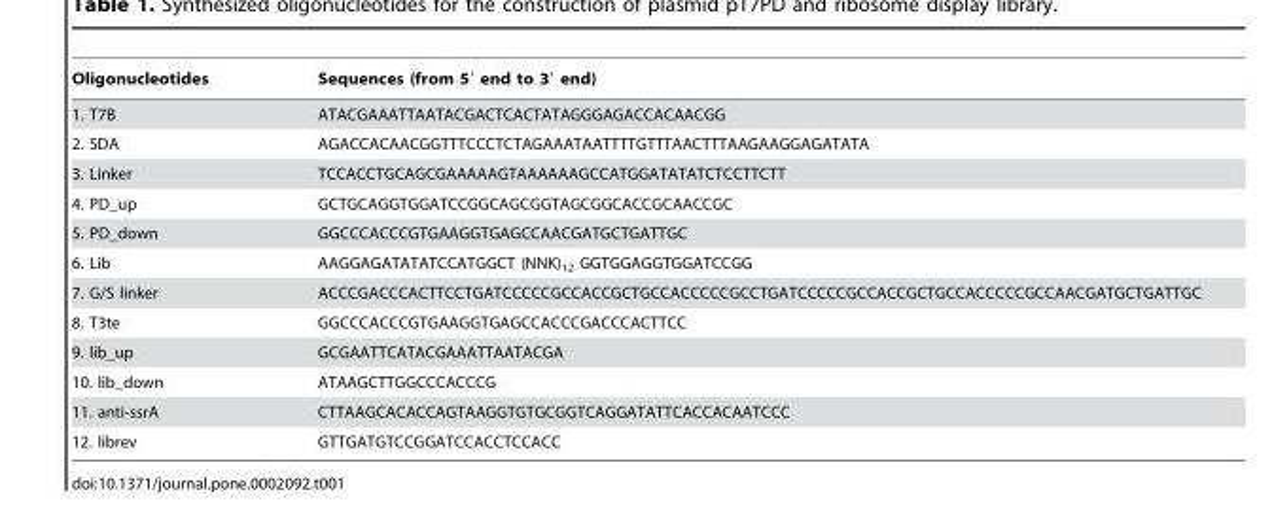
<table><thead><tr><td>Oligonucleotides</td><td>Sequences (from 5′ end to 3′ end)</td></tr></thead><tbody><tr><td>1. T7B</td><td>ATACGAAATTAATACGACTCACTATAGGGAGACCACAACGG</td></tr><tr><td>2. SDA</td><td>AGACCACAACGGTTTCCCTCTAGAAATAATTTTGTTTAACTTTAAGAAGGAGATATA</td></tr><tr><td>3. Linker</td><td>TCCACCTGCAGCGAAAAAGTAAAAAAGCCATGGATATATCTCCTTCTT</td></tr><tr><td>4. PD_up</td><td>GCTGCAGGTGGATCCGGCAGCGGTAGCGGCACCGCAACCGC</td></tr><tr><td>5. PD_down</td><td>GGCCCACCCGTGAAGGTGAGCCAACGATGCTGATTGC</td></tr><tr><td>6. Lib</td><td>AAGGAGATATATCCATGGCT (NNK)<sub>12</sub> GGTGGAGGTGGATCCGG</td></tr><tr><td>7. G/S linker</td><td>ACCCGACCCACTTCCTGATCCCCCGCCACCGCTGCCACCCCCGCCTGATCCCCCGCCACCGCTGCCACCCCCGCCAACGATGCTGATTGC</td></tr><tr><td>8. T3te</td><td>GGCCCACCCGTGAAGGTGAGCCACCCGACCCACTTCC</td></tr><tr><td>9. lib_up</td><td>GCGAATTCATACGAAATTAATACGA</td></tr><tr><td>10. lib_down</td><td>ATAAGCTTGGCCCACCCG</td></tr><tr><td>11. anti-ssrA</td><td>CTTAAGCACACCAGTAAGGTGTGCGGTCAGGATATTCACCACAATCCC</td></tr><tr><td>12. librev</td><td>GTTGATGTCCGGATCCACCTCCACC</td></tr></tbody></table>